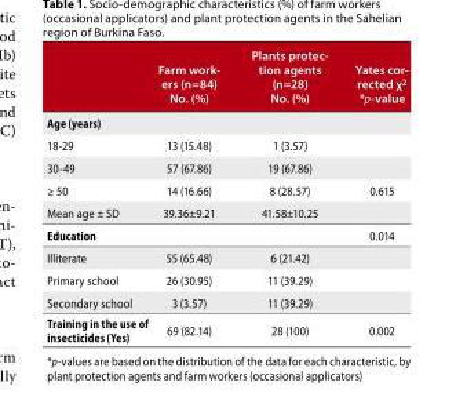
<table><thead><tr><td></td><td>Farm work- ers (n=84) No. (%)</td><td>Plants protec- tion agents (n=28) No. (%)</td><td>Yates cor- rected χ2 *p-value</td></tr></thead><tbody><tr><td colspan="4">Age (years)</td></tr><tr><td>18-29</td><td>13 (15.48)</td><td>1 (3.57)</td><td></td></tr><tr><td>30-49</td><td>57 (67.86)</td><td>19 (67.86)</td><td></td></tr><tr><td>≥ 50</td><td>14 (16.66)</td><td>8 (28.57)</td><td>0.615</td></tr><tr><td>Mean age ± SD</td><td>39.36±9.21</td><td>41.58±10.25</td><td></td></tr><tr><td>Education</td><td></td><td></td><td>0.014</td></tr><tr><td>Illiterate</td><td>55 (65.48)</td><td>6 (21.42)</td><td></td></tr><tr><td>Primary school</td><td>26 (30.95)</td><td>11 (39.29)</td><td></td></tr><tr><td>Secondary school</td><td>3 (3.57)</td><td>11 (39.29)</td><td></td></tr><tr><td>Training in the use of insecticides (Yes)</td><td>69 (82.14)</td><td>28 (100)</td><td>0.002</td></tr></tbody></table>